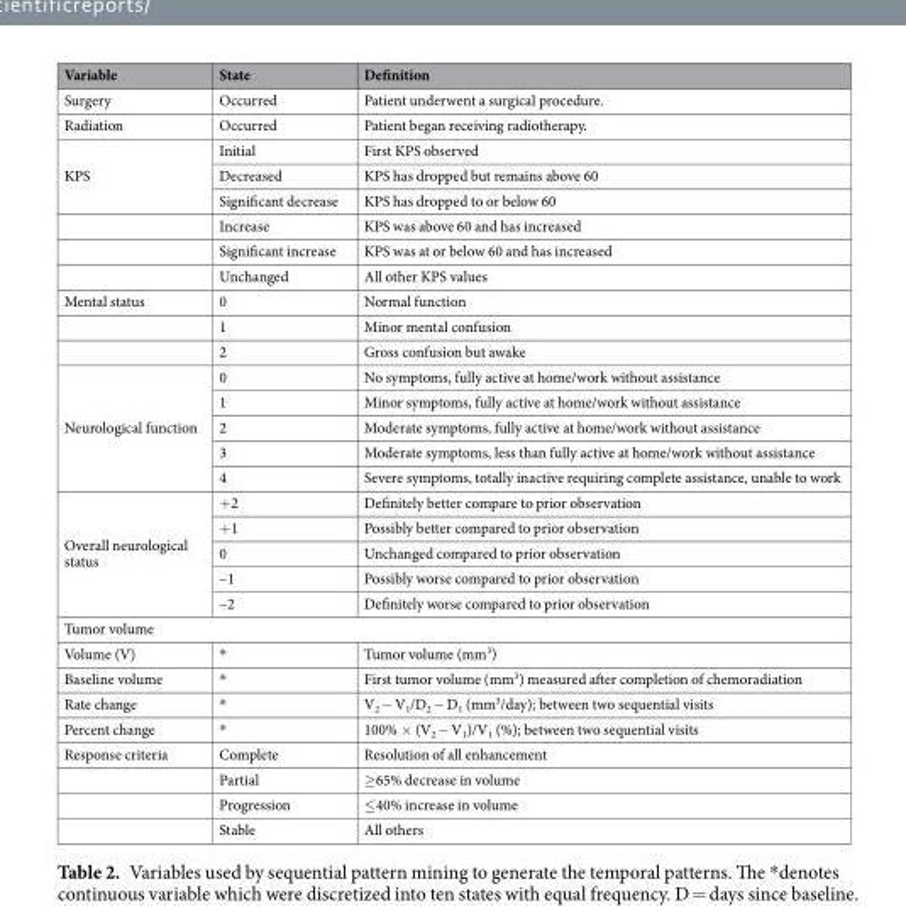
<table><thead><tr><td>Variable</td><td>State</td><td>Definition</td></tr></thead><tbody><tr><td>Surgery</td><td>Occurred</td><td>Patient underwent a surgical procedure.</td></tr><tr><td>Radiation</td><td>Occurred</td><td>Patient began receiving radiotherapy.</td></tr><tr><td rowspan="6">KPS</td><td>Initial</td><td>First KPS observed</td></tr><tr><td>Decreased</td><td>KPS has dropped but remains above 60</td></tr><tr><td>Significant decrease</td><td>KPS has dropped to or below 60</td></tr><tr><td>Increase</td><td>KPS was above 60 and has increased</td></tr><tr><td>Significant increase</td><td>KPS was at or below 60 and has increased</td></tr><tr><td>Unchanged</td><td>All other KPS values</td></tr><tr><td rowspan="3">Mental status</td><td>0</td><td>Normal function</td></tr><tr><td>1</td><td>Minor mental confusion</td></tr><tr><td>2</td><td>Gross confusion but awake</td></tr><tr><td rowspan="5">Neurological function</td><td>0</td><td>No symptoms, fully active at home/work without assistance</td></tr><tr><td>1</td><td>Minor symptoms, fully active at home/work without assistance</td></tr><tr><td>2</td><td>Moderate symptoms, fully active at home/work without assistance</td></tr><tr><td>3</td><td>Moderate symptoms, less than fully active at home/work without assistance</td></tr><tr><td>4</td><td>Severe symptoms, totally inactive requiring complete assistance, unable to work</td></tr><tr><td rowspan="5">Overall neurological status</td><td>+2</td><td>Definitely better compare to prior observation</td></tr><tr><td>+1</td><td>Possibly better compared to prior observation</td></tr><tr><td>0</td><td>Unchanged compared to prior observation</td></tr><tr><td>–1</td><td>Possibly worse compared to prior observation</td></tr><tr><td>–2</td><td>Definitely worse compared to prior observation</td></tr><tr><td colspan="3">Tumor volume</td></tr><tr><td>Volume (V)</td><td>*</td><td>Tumor volume (mm<sup>3</sup>)</td></tr><tr><td>Baseline volume</td><td>*</td><td>First tumor volume (mm<sup>3</sup>) measured after completion of chemoradiation</td></tr><tr><td>Rate change</td><td>*</td><td>V<sub>2</sub> − V<sub>1</sub>/D<sub>2</sub> − D<sub>1</sub> (mm<sup>3</sup>/day); between two sequential visits</td></tr><tr><td>Percent change</td><td>*</td><td>100% × (V<sub>2</sub> − V<sub>1</sub>)/V<sub>1</sub> (%); between two sequential visits</td></tr><tr><td rowspan="4">Response criteria</td><td>Complete</td><td>Resolution of all enhancement</td></tr><tr><td>Partial</td><td>≥65% decrease in volume</td></tr><tr><td>Progression</td><td>≤40% increase in volume</td></tr><tr><td>Stable</td><td>All others</td></tr></tbody></table>